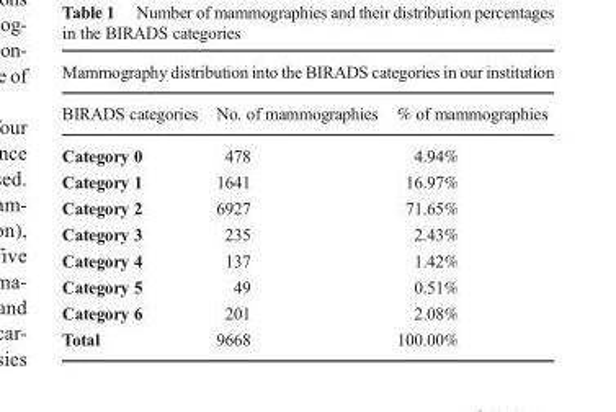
<table><thead><tr><td colspan="3">Mammography distribution into the BIRADS categories in our institution</td></tr><tr><td>BIRADS categories</td><td>No. of mammographies</td><td>% of mammographies</td></tr></thead><tbody><tr><td>Category 0</td><td>478</td><td>4.94%</td></tr><tr><td>Category 1</td><td>1641</td><td>16.97%</td></tr><tr><td>Category 2</td><td>6927</td><td>71.65%</td></tr><tr><td>Category 3</td><td>235</td><td>2.43%</td></tr><tr><td>Category 4</td><td>137</td><td>1.42%</td></tr><tr><td>Category 5</td><td>49</td><td>0.51%</td></tr><tr><td>Category 6</td><td>201</td><td>2.08%</td></tr><tr><td>Total</td><td>9668</td><td>100.00%</td></tr></tbody></table>